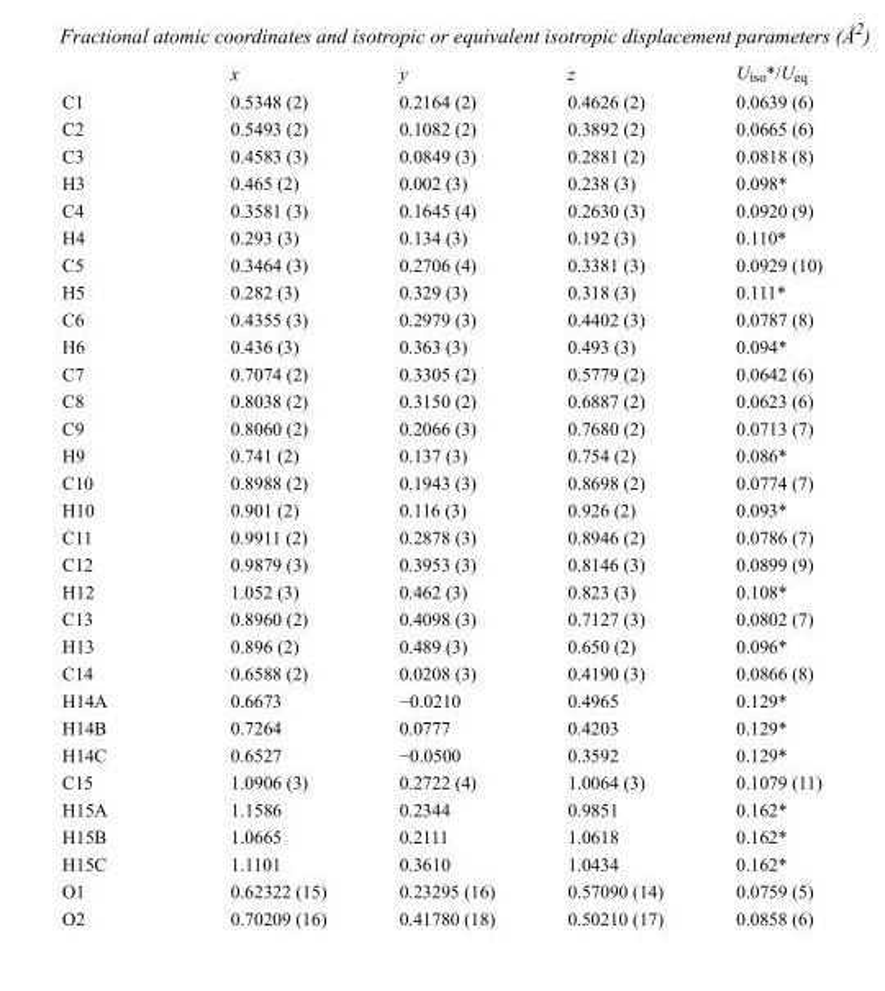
<table><thead><tr><td></td><td>x</td><td>y</td><td>z</td><td>U<sub>iso</sub>*/U<sub>eq</sub></td></tr></thead><tbody><tr><td>C1</td><td>0.5348 (2)</td><td>0.2164 (2)</td><td>0.4626 (2)</td><td>0.0639 (6)</td></tr><tr><td>C2</td><td>0.5493 (2)</td><td>0.1082 (2)</td><td>0.3892 (2)</td><td>0.0665 (6)</td></tr><tr><td>C3</td><td>0.4583 (3)</td><td>0.0849 (3)</td><td>0.2881 (2)</td><td>0.0818 (8)</td></tr><tr><td>H3</td><td>0.465 (2)</td><td>0.002 (3)</td><td>0.238 (3)</td><td>0.098*</td></tr><tr><td>C4</td><td>0.3581 (3)</td><td>0.1645 (4)</td><td>0.2630 (3)</td><td>0.0920 (9)</td></tr><tr><td>H4</td><td>0.293 (3)</td><td>0.134 (3)</td><td>0.192 (3)</td><td>0.110*</td></tr><tr><td>C5</td><td>0.3464 (3)</td><td>0.2706 (4)</td><td>0.3381 (3)</td><td>0.0929 (10)</td></tr><tr><td>H5</td><td>0.282 (3)</td><td>0.329 (3)</td><td>0.318 (3)</td><td>0.111*</td></tr><tr><td>C6</td><td>0.4355 (3)</td><td>0.2979 (3)</td><td>0.4402 (3)</td><td>0.0787 (8)</td></tr><tr><td>H6</td><td>0.436 (3)</td><td>0.363 (3)</td><td>0.493 (3)</td><td>0.094*</td></tr><tr><td>C7</td><td>0.7074 (2)</td><td>0.3305 (2)</td><td>0.5779 (2)</td><td>0.0642 (6)</td></tr><tr><td>C8</td><td>0.8038 (2)</td><td>0.3150 (2)</td><td>0.6887 (2)</td><td>0.0623 (6)</td></tr><tr><td>C9</td><td>0.8060 (2)</td><td>0.2066 (3)</td><td>0.7680 (2)</td><td>0.0713 (7)</td></tr><tr><td>H9</td><td>0.741 (2)</td><td>0.137 (3)</td><td>0.754 (2)</td><td>0.086*</td></tr><tr><td>C10</td><td>0.8988 (2)</td><td>0.1943 (3)</td><td>0.8698 (2)</td><td>0.0774 (7)</td></tr><tr><td>H10</td><td>0.901 (2)</td><td>0.116 (3)</td><td>0.926 (2)</td><td>0.093*</td></tr><tr><td>C11</td><td>0.9911 (2)</td><td>0.2878 (3)</td><td>0.8946 (2)</td><td>0.0786 (7)</td></tr><tr><td>C12</td><td>0.9879 (3)</td><td>0.3953 (3)</td><td>0.8146 (3)</td><td>0.0899 (9)</td></tr><tr><td>H12</td><td>1.052 (3)</td><td>0.462 (3)</td><td>0.823 (3)</td><td>0.108*</td></tr><tr><td>C13</td><td>0.8960 (2)</td><td>0.4098 (3)</td><td>0.7127 (3)</td><td>0.0802 (7)</td></tr><tr><td>H13</td><td>0.896 (2)</td><td>0.489 (3)</td><td>0.650 (2)</td><td>0.096*</td></tr><tr><td>C14</td><td>0.6588 (2)</td><td>0.0208 (3)</td><td>0.4190 (3)</td><td>0.0866 (8)</td></tr><tr><td>H14A</td><td>0.6673</td><td>−0.0210</td><td>0.4965</td><td>0.129*</td></tr><tr><td>H14B</td><td>0.7264</td><td>0.0777</td><td>0.4203</td><td>0.129*</td></tr><tr><td>H14C</td><td>0.6527</td><td>−0.0500</td><td>0.3592</td><td>0.129*</td></tr><tr><td>C15</td><td>1.0906 (3)</td><td>0.2722 (4)</td><td>1.0064 (3)</td><td>0.1079 (11)</td></tr><tr><td>H15A</td><td>1.1586</td><td>0.2344</td><td>0.9851</td><td>0.162*</td></tr><tr><td>H15B</td><td>1.0665</td><td>0.2111</td><td>1.0618</td><td>0.162*</td></tr><tr><td>H15C</td><td>1.1101</td><td>0.3610</td><td>1.0434</td><td>0.162*</td></tr><tr><td>O1</td><td>0.62322 (15)</td><td>0.23295 (16)</td><td>0.57090 (14)</td><td>0.0759 (5)</td></tr><tr><td>O2</td><td>0.70209 (16)</td><td>0.41780 (18)</td><td>0.50210 (17)</td><td>0.0858 (6)</td></tr></tbody></table>